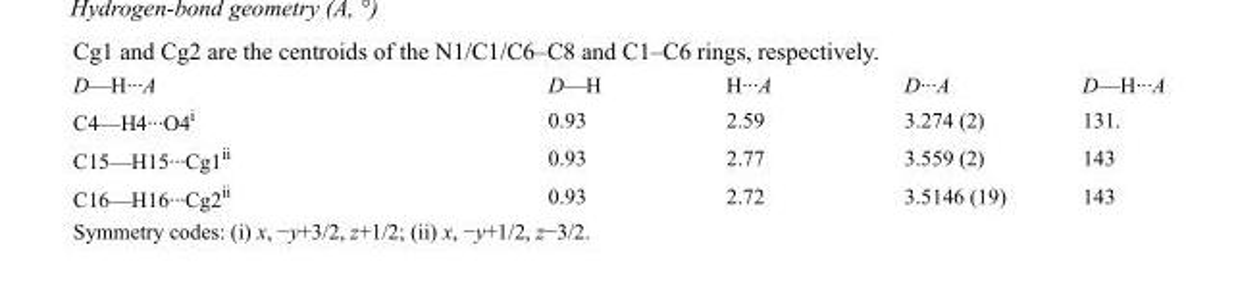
<table><tbody><tr><td>D—H···A</td><td>D—H</td><td>H···A</td><td>D···A</td><td>D—H···A</td></tr><tr><td>C4—H4···O4<sup>i</sup></td><td>0.93</td><td>2.59</td><td>3.274 (2)</td><td>131.</td></tr><tr><td>C15—H15···Cg1<sup>ii</sup></td><td>0.93</td><td>2.77</td><td>3.559 (2)</td><td>143</td></tr><tr><td>C16—H16···Cg2<sup>ii</sup></td><td>0.93</td><td>2.72</td><td>3.5146 (19)</td><td>143</td></tr></tbody></table>